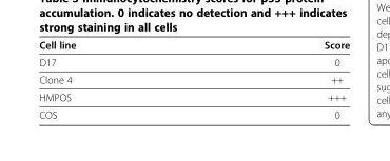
<table><thead><tr><td>Cell line</td><td>Score</td></tr></thead><tbody><tr><td>D17</td><td>0</td></tr><tr><td>Clone 4</td><td>++</td></tr><tr><td>HMPOS</td><td>+++</td></tr><tr><td>COS</td><td>0</td></tr></tbody></table>